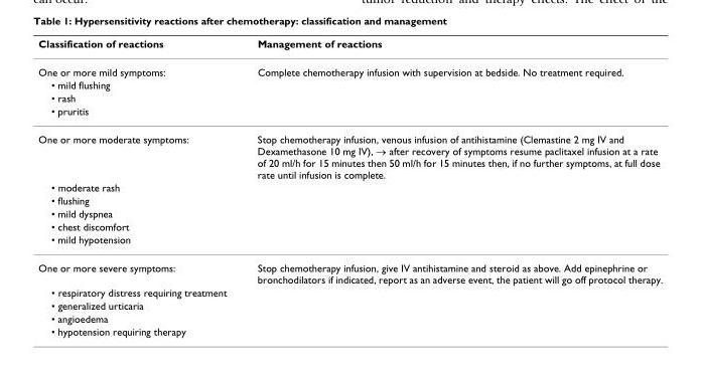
<table><thead><tr><td>Classification of reactions</td><td>Management of reactions</td></tr></thead><tbody><tr><td>One or more mild symptoms:</td><td>Complete chemotherapy infusion with supervision at bedside. No treatment required.</td></tr><tr><td colspan="2">• mild flushing</td></tr><tr><td colspan="2">• rash</td></tr><tr><td colspan="2">• pruritis</td></tr><tr><td>One or more moderate symptoms:</td><td>Stop chemotherapy infusion, venous infusion of antihistamine (Clemastine 2 mg IV and Dexamethasone 10 mg IV), → after recovery of symptoms resume paclitaxel infusion at a rate of 20 ml/h for 15 minutes then 50 ml/h for 15 minutes then, if no further symptoms, at full dose rate until infusion is complete.</td></tr><tr><td colspan="2">• moderate rash</td></tr><tr><td colspan="2">• flushing</td></tr><tr><td colspan="2">• mild dyspnea</td></tr><tr><td colspan="2">• chest discomfort</td></tr><tr><td colspan="2">• mild hypotension</td></tr><tr><td>One or more severe symptoms:</td><td>Stop chemotherapy infusion, give IV antihistamine and steroid as above. Add epinephrine or bronchodilators if indicated, report as an adverse event, the patient will go off protocol therapy.</td></tr><tr><td colspan="2">• respiratory distress requiring treatment</td></tr><tr><td colspan="2">• generalized urticaria</td></tr><tr><td colspan="2">• angioedema</td></tr><tr><td>• hypotension requiring therapy</td><td></td></tr></tbody></table>